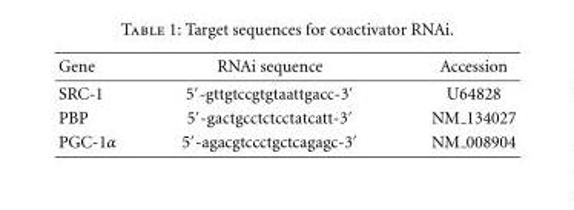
<table><tbody><tr><td>Gene</td><td>RNAi sequence</td><td>Accession</td></tr><tr><td>SRC-1</td><td>5′-gttgtccgtgtaattgacc-3′</td><td>U64828</td></tr><tr><td>PBP</td><td>5′-gactgcctctcctatcatt-3′</td><td>NM 134027</td></tr><tr><td>PGC-1α</td><td>5′-agacgtccctgctcagagc-3′</td><td>NM 008904</td></tr></tbody></table>